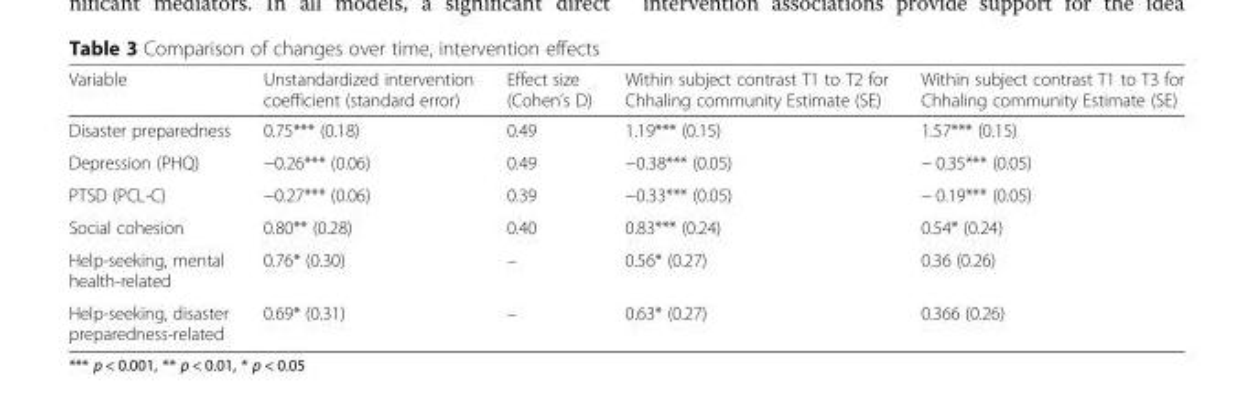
<table><thead><tr><td>Variable</td><td>Unstandardized intervention coefficient (standard error)</td><td>Effect size (Cohen’s D)</td><td>Within subject contrast T1 to T2 for Chhaling community Estimate (SE)</td><td>Within subject contrast T1 to T3 for Chhaling community Estimate (SE)</td></tr></thead><tbody><tr><td>Disaster preparedness</td><td>0.75*** (0.18)</td><td>0.49</td><td>1.19*** (0.15)</td><td>1.57*** (0.15)</td></tr><tr><td>Depression (PHQ)</td><td>−0.26*** (0.06)</td><td>0.49</td><td>−0.38*** (0.05)</td><td>− 0.35*** (0.05)</td></tr><tr><td>PTSD (PCL-C)</td><td>−0.27*** (0.06)</td><td>0.39</td><td>−0.33*** (0.05)</td><td>− 0.19*** (0.05)</td></tr><tr><td>Social cohesion</td><td>0.80** (0.28)</td><td>0.40</td><td>0.83*** (0.24)</td><td>0.54* (0.24)</td></tr><tr><td>Help-seeking, mental health-related</td><td>0.76* (0.30)</td><td>–</td><td>0.56* (0.27)</td><td>0.36 (0.26)</td></tr><tr><td>Help-seeking, disaster preparedness-related</td><td>0.69* (0.31)</td><td>–</td><td>0.63* (0.27)</td><td>0.366 (0.26)</td></tr></tbody></table>